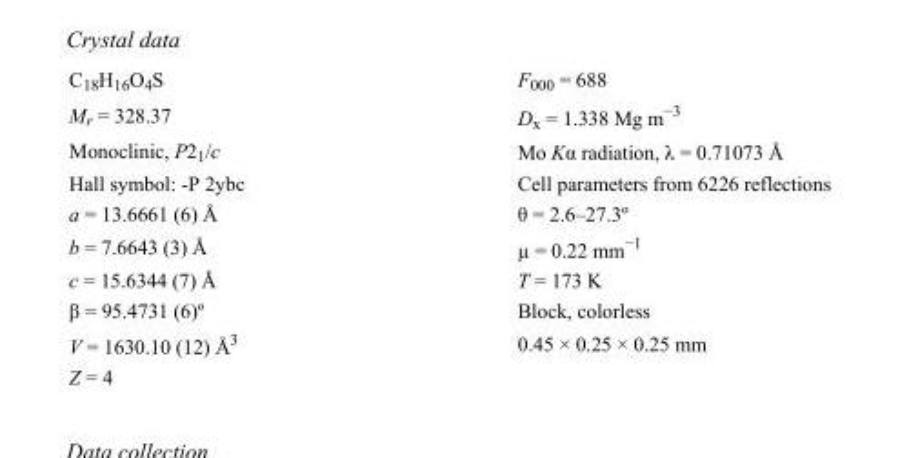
<table><tbody><tr><td>C<sub>18</sub>H<sub>16</sub>O<sub>4</sub>S</td><td>F000 = 688</td></tr><tr><td>M<sub>r</sub> = 328.37</td><td>D<sub>x</sub> = 1.338 Mg m<sup>−3</sup></td></tr><tr><td>Monoclinic, P2<sub>1</sub>/c</td><td>Mo Kα radiation, λ = 0.71073 Å</td></tr><tr><td>Hall symbol: -P 2ybc</td><td>Cell parameters from 6226 reflections</td></tr><tr><td>a = 13.6661 (6) Å</td><td>θ = 2.6–27.3º</td></tr><tr><td>b = 7.6643 (3) Å</td><td>µ = 0.22 mm<sup>−1</sup></td></tr><tr><td>c = 15.6344 (7) Å</td><td>T = 173 K</td></tr><tr><td>β = 95.4731 (6)º</td><td>Block, colorless</td></tr><tr><td>V = 1630.10 (12) Å<sup>3</sup></td><td>0.45 × 0.25 × 0.25 mm</td></tr><tr><td>Z = 4</td><td></td></tr></tbody></table>